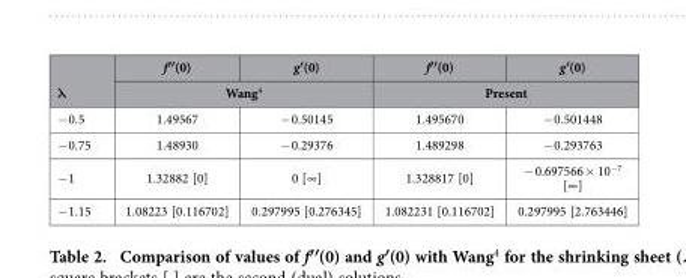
<table><thead><tr><td rowspan="2">λ</td><td>f′′(0)</td><td>g′(0)</td><td>f′′(0)</td><td>g′(0)</td></tr><tr><td colspan="2">Wang<sup>4</sup></td><td colspan="2">Present</td></tr></thead><tbody><tr><td>− 0.5</td><td>1.49567</td><td>− 0.50145</td><td>1.495670</td><td>− 0.501448</td></tr><tr><td>− 0.75</td><td>1.48930</td><td>− 0.29376</td><td>1.489298</td><td>− 0.293763</td></tr><tr><td>− 1</td><td>1.32882 [0]</td><td>0 [∞]</td><td>1.328817 [0]</td><td>− 0.697566 × 10<sup>−7</sup> [∞]</td></tr><tr><td>− 1.15</td><td>1.08223 [0.116702]</td><td>0.297995 [0.276345]</td><td>1.082231 [0.116702]</td><td>0.297995 [2.763446]</td></tr></tbody></table>